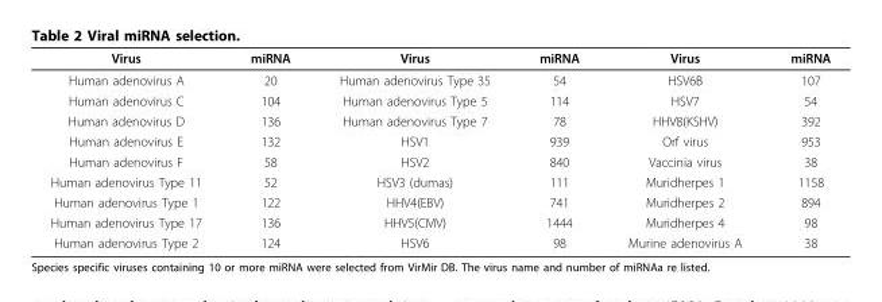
<table><thead><tr><td>Virus</td><td>miRNA</td><td>Virus</td><td>miRNA</td><td>Virus</td><td>miRNA</td></tr></thead><tbody><tr><td>Human adenovirus A</td><td>20</td><td>Human adenovirus Type 35</td><td>54</td><td>HSV6B</td><td>107</td></tr><tr><td>Human adenovirus C</td><td>104</td><td>Human adenovirus Type 5</td><td>114</td><td>HSV7</td><td>54</td></tr><tr><td>Human adenovirus D</td><td>136</td><td>Human adenovirus Type 7</td><td>78</td><td>HHV8(KSHV)</td><td>392</td></tr><tr><td>Human adenovirus E</td><td>132</td><td>HSV1</td><td>939</td><td>Orf virus</td><td>953</td></tr><tr><td>Human adenovirus F</td><td>58</td><td>HSV2</td><td>840</td><td>Vaccinia virus</td><td>38</td></tr><tr><td>Human adenovirus Type 11</td><td>52</td><td>HSV3 (dumas)</td><td>111</td><td>Muridherpes 1</td><td>1158</td></tr><tr><td>Human adenovirus Type 1</td><td>122</td><td>HHV4(EBV)</td><td>741</td><td>Muridherpes 2</td><td>894</td></tr><tr><td>Human adenovirus Type 17</td><td>136</td><td>HHV5(CMV)</td><td>1444</td><td>Muridherpes 4</td><td>98</td></tr><tr><td>Human adenovirus Type 2</td><td>124</td><td>HSV6</td><td>98</td><td>Murine adenovirus A</td><td>38</td></tr></tbody></table>